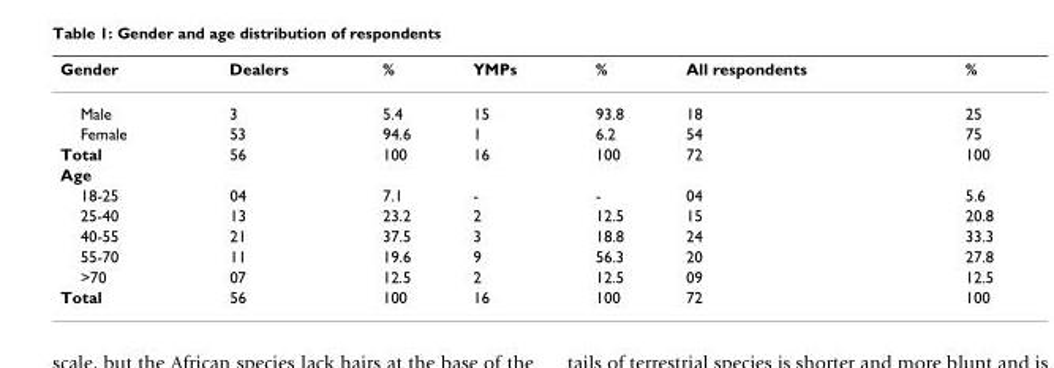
<table><thead><tr><td>Gender</td><td>Dealers</td><td>%</td><td>YMPs</td><td>%</td><td>All respondents</td><td>%</td></tr></thead><tbody><tr><td>Male</td><td>3</td><td>5.4</td><td>15</td><td>93.8</td><td>18</td><td>25</td></tr><tr><td>Female</td><td>53</td><td>94.6</td><td>1</td><td>6.2</td><td>54</td><td>75</td></tr><tr><td>Total</td><td>56</td><td>100</td><td>16</td><td>100</td><td>72</td><td>100</td></tr><tr><td colspan="7">Age</td></tr><tr><td>18-25</td><td>04</td><td>7.1</td><td>-</td><td>-</td><td>04</td><td>5.6</td></tr><tr><td>25-40</td><td>13</td><td>23.2</td><td>2</td><td>12.5</td><td>15</td><td>20.8</td></tr><tr><td>40-55</td><td>21</td><td>37.5</td><td>3</td><td>18.8</td><td>24</td><td>33.3</td></tr><tr><td>55-70</td><td>11</td><td>19.6</td><td>9</td><td>56.3</td><td>20</td><td>27.8</td></tr><tr><td>&gt;70</td><td>07</td><td>12.5</td><td>2</td><td>12.5</td><td>09</td><td>12.5</td></tr><tr><td>Total</td><td>56</td><td>100</td><td>16</td><td>100</td><td>72</td><td>100</td></tr></tbody></table>